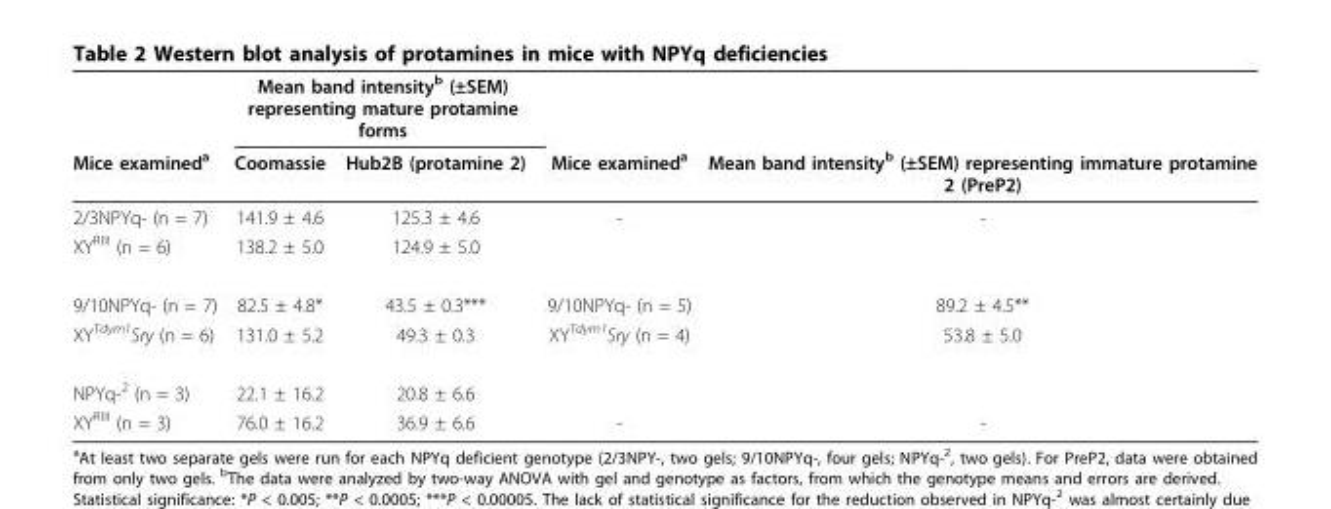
<table><thead><tr><td rowspan="2">Mice examined<sup>a</sup></td><td colspan="2">Mean band intensity<sup>b</sup> (±SEM) representing mature protamine forms</td><td rowspan="2">Mice examined<sup>a</sup></td><td rowspan="2">Mean band intensity<sup>b</sup> (±SEM) representing immature protamine 2 (PreP2)</td></tr><tr><td>Coomassie</td><td>Hub2B (protamine 2)</td></tr></thead><tbody><tr><td>2/3NPYq- (n = 7)</td><td>141.9 ± 4.6</td><td>125.3 ± 4.6</td><td>-</td><td>-</td></tr><tr><td>XY<sup>RIII</sup> (n = 6)</td><td>138.2 ± 5.0</td><td>124.9 ± 5.0</td><td></td><td></td></tr><tr><td>9/10NPYq- (n = 7)</td><td>82.5 ± 4.8*</td><td>43.5 ± 0.3***</td><td>9/10NPYq- (n = 5)</td><td>89.2 ± 4.5**</td></tr><tr><td>XY<sup>Tdym1</sup>Sry (n = 6)</td><td>131.0 ± 5.2</td><td>49.3 ± 0.3</td><td>XY<sup>Tdym1</sup>Sry (n = 4)</td><td>53.8 ± 5.0</td></tr><tr><td>NPYq-<sup>2</sup> (n = 3)</td><td>22.1 ± 16.2</td><td>20.8 ± 6.6</td><td></td><td></td></tr><tr><td>XY<sup>RIII</sup> (n = 3)</td><td>76.0 ± 16.2</td><td>36.9 ± 6.6</td><td>-</td><td>-</td></tr></tbody></table>